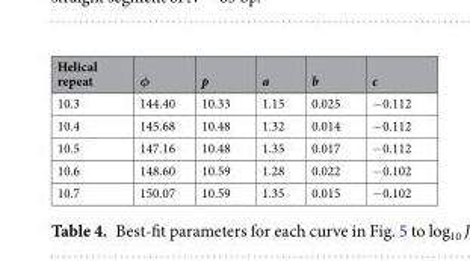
<table><thead><tr><td>Helical repeat</td><td>φ</td><td>p</td><td>a</td><td>b</td><td>c</td></tr></thead><tbody><tr><td>10.3</td><td>144.40</td><td>10.33</td><td>1.15</td><td>0.025</td><td>−0.112</td></tr><tr><td>10.4</td><td>145.68</td><td>10.48</td><td>1.32</td><td>0.014</td><td>−0.112</td></tr><tr><td>10.5</td><td>147.16</td><td>10.48</td><td>1.35</td><td>0.017</td><td>−0.112</td></tr><tr><td>10.6</td><td>148.60</td><td>10.59</td><td>1.28</td><td>0.022</td><td>−0.102</td></tr><tr><td>10.7</td><td>150.07</td><td>10.59</td><td>1.35</td><td>0.015</td><td>−0.102</td></tr></tbody></table>